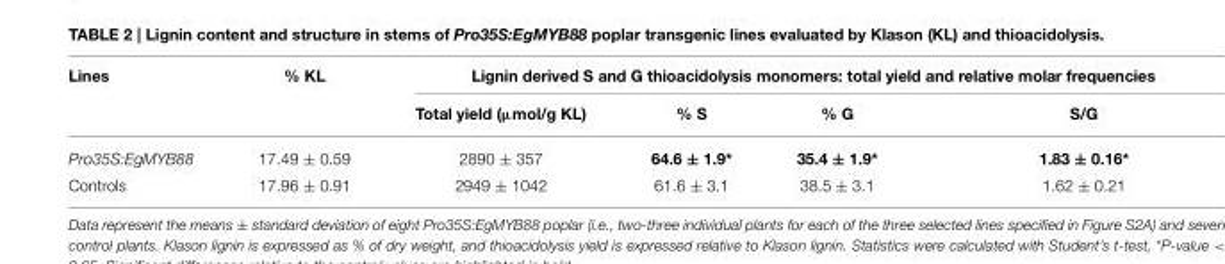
<table><thead><tr><td rowspan="2">Lines</td><td rowspan="2">% KL</td><td colspan="4">Lignin derived S and G thioacidolysis monomers: total yield and relative molar frequencies</td></tr><tr><td>Total yield (µmol/g KL)</td><td>% S</td><td>% G</td><td>S/G</td></tr></thead><tbody><tr><td>Pro35S:EgMYB88</td><td>17.49 ± 0.59</td><td>2890 ± 357</td><td>64.6 ± 1.9*</td><td>35.4 ± 1.9*</td><td>1.83 ± 0.16*</td></tr><tr><td>Controls</td><td>17.96 ± 0.91</td><td>2949 ± 1042</td><td>61.6 ± 3.1</td><td>38.5 ± 3.1</td><td>1.62 ± 0.21</td></tr></tbody></table>